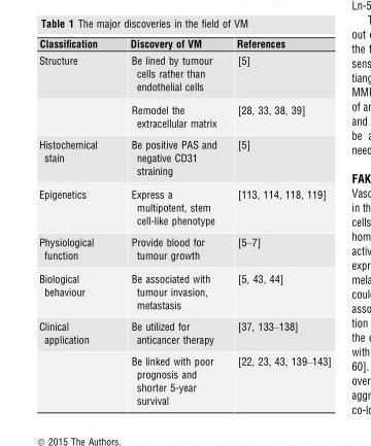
<table><thead><tr><td>Classification</td><td>Discovery of VM</td><td>References</td></tr></thead><tbody><tr><td rowspan="2">Structure</td><td>Be lined by tumour cells rather than endothelial cells</td><td>[5]</td></tr><tr><td>Remodel the extracellular matrix</td><td>[28, 33, 38, 39]</td></tr><tr><td>Histochemical stain</td><td>Be positive PAS and negative CD31 straining</td><td>[5]</td></tr><tr><td>Epigenetics</td><td>Express a multipotent, stem cell-like phenotype</td><td>[113, 114, 118, 119]</td></tr><tr><td>Physiological function</td><td>Provide blood for tumour growth</td><td>[5–7]</td></tr><tr><td>Biological behaviour</td><td>Be associated with tumour invasion, metastasis</td><td>[5, 43, 44]</td></tr><tr><td rowspan="2">Clinical application</td><td>Be utilized for anticancer therapy</td><td>[37, 133–138]</td></tr><tr><td>Be linked with poor prognosis and shorter 5-year survival</td><td>[22, 23, 43, 139–143]</td></tr></tbody></table>